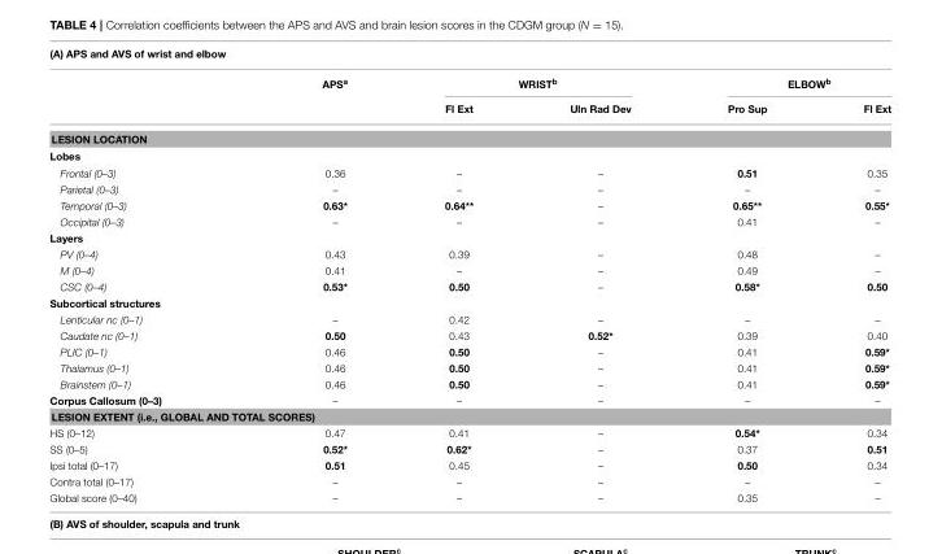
<table><thead><tr><td colspan="6">(A) APS and AVS of wrist and elbow</td></tr><tr><td rowspan="2"></td><td rowspan="2">APS<sup>a</sup></td><td colspan="2">WRIST<sup>b</sup></td><td colspan="2">ELBOW<sup>b</sup></td></tr><tr><td>Fl Ext</td><td>Uln Rad Dev</td><td>Pro Sup</td><td>Fl Ext</td></tr></thead><tbody><tr><td colspan="6">LESION LOCATION</td></tr><tr><td colspan="6">Lobes</td></tr><tr><td>Frontal (0–3)</td><td>0.36</td><td>–</td><td>–</td><td>0.51</td><td>0.35</td></tr><tr><td>Parietal (0–3)</td><td>–</td><td>–</td><td>–</td><td>–</td><td>–</td></tr><tr><td>Temporal (0–3)</td><td>0.63*</td><td>0.64**</td><td>–</td><td>0.65**</td><td>0.55*</td></tr><tr><td>Occipital (0–3)</td><td>–</td><td>–</td><td>–</td><td>0.41</td><td>–</td></tr><tr><td colspan="6">Layers</td></tr><tr><td>PV (0–4)</td><td>0.43</td><td>0.39</td><td>–</td><td>0.48</td><td>–</td></tr><tr><td>M (0–4)</td><td>0.41</td><td>–</td><td>–</td><td>0.49</td><td>–</td></tr><tr><td>CSC (0–4)</td><td>0.53*</td><td>0.50</td><td>–</td><td>0.58*</td><td>0.50</td></tr><tr><td colspan="6">Subcortical structures</td></tr><tr><td>Lenticular nc (0–1)</td><td>–</td><td>0.42</td><td>–</td><td>–</td><td>–</td></tr><tr><td>Caudate nc (0–1)</td><td>0.50</td><td>0.43</td><td>0.52*</td><td>0.39</td><td>0.40</td></tr><tr><td>PLIC (0–1)</td><td>0.46</td><td>0.50</td><td>–</td><td>0.41</td><td>0.59*</td></tr><tr><td>Thalamus (0–1)</td><td>0.46</td><td>0.50</td><td>–</td><td>0.41</td><td>0.59*</td></tr><tr><td>Brainstem (0–1)</td><td>0.46</td><td>0.50</td><td>–</td><td>0.41</td><td>0.59*</td></tr><tr><td>Corpus Callosum (0–3)</td><td>–</td><td>–</td><td>–</td><td>–</td><td>–</td></tr><tr><td colspan="6">LESION EXTENT (i.e., GLOBAL AND TOTAL SCORES)</td></tr><tr><td>HS (0–12)</td><td>0.47</td><td>0.41</td><td>–</td><td>0.54*</td><td>0.34</td></tr><tr><td>SS (0–5)</td><td>0.52*</td><td>0.62*</td><td>–</td><td>0.37</td><td>0.51</td></tr><tr><td>Ipsi total (0–17)</td><td>0.51</td><td>0.45</td><td>–</td><td>0.50</td><td>0.34</td></tr><tr><td>Contra total (0–17)</td><td>–</td><td>–</td><td>–</td><td>–</td><td>–</td></tr><tr><td>Global score (0–40)</td><td>–</td><td>–</td><td>–</td><td>0.35</td><td>–</td></tr></tbody></table>